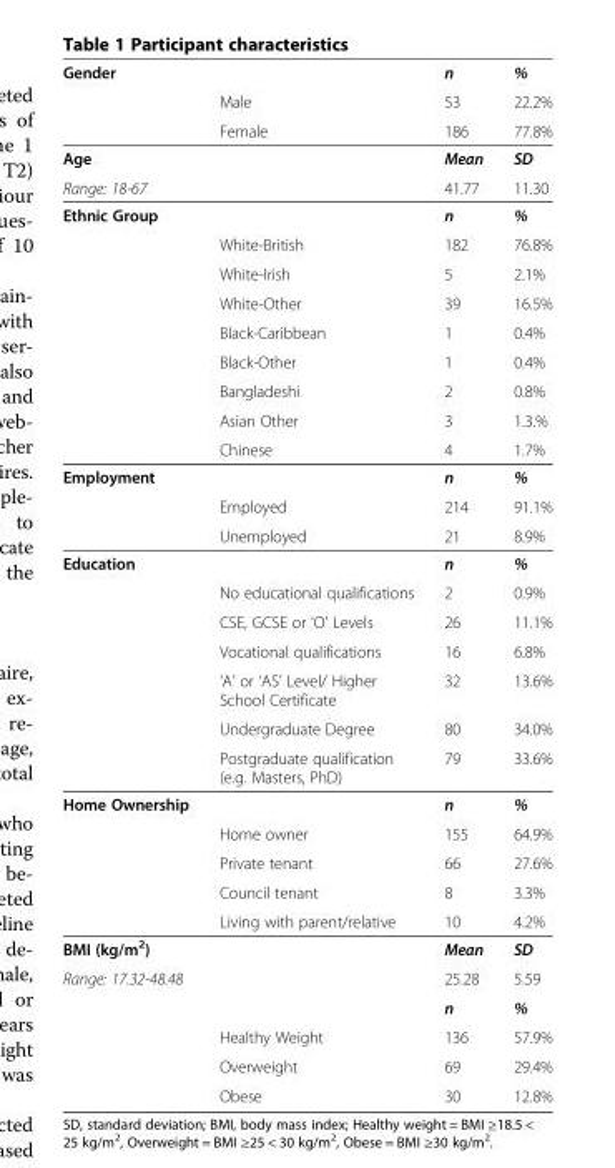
<table><tbody><tr><td rowspan="3">Gender</td><td></td><td>n</td><td>%</td></tr><tr><td>Male</td><td>53</td><td>22.2%</td></tr><tr><td>Female</td><td>186</td><td>77.8%</td></tr><tr><td>Age</td><td></td><td>Mean</td><td>SD</td></tr><tr><td>Range: 18-67</td><td></td><td>41.77</td><td>11.30</td></tr><tr><td rowspan="9">Ethnic Group</td><td></td><td>n</td><td>%</td></tr><tr><td>White-British</td><td>182</td><td>76.8%</td></tr><tr><td>White-Irish</td><td>5</td><td>2.1%</td></tr><tr><td>White-Other</td><td>39</td><td>16.5%</td></tr><tr><td>Black-Caribbean</td><td>1</td><td>0.4%</td></tr><tr><td>Black-Other</td><td>1</td><td>0.4%</td></tr><tr><td>Bangladeshi</td><td>2</td><td>0.8%</td></tr><tr><td>Asian Other</td><td>3</td><td>1.3.%</td></tr><tr><td>Chinese</td><td>4</td><td>1.7%</td></tr><tr><td rowspan="3">Employment</td><td></td><td>n</td><td>%</td></tr><tr><td>Employed</td><td>214</td><td>91.1%</td></tr><tr><td>Unemployed</td><td>21</td><td>8.9%</td></tr><tr><td rowspan="7">Education</td><td></td><td>n</td><td>%</td></tr><tr><td>No educational qualifications</td><td>2</td><td>0.9%</td></tr><tr><td>CSE, GCSE or ‘O’ Levels</td><td>26</td><td>11.1%</td></tr><tr><td>Vocational qualifications</td><td>16</td><td>6.8%</td></tr><tr><td>‘A’ or ‘AS’ Level/ Higher School Certificate</td><td>32</td><td>13.6%</td></tr><tr><td>Undergraduate Degree</td><td>80</td><td>34.0%</td></tr><tr><td>Postgraduate qualification (e.g. Masters, PhD)</td><td>79</td><td>33.6%</td></tr><tr><td rowspan="5">Home Ownership</td><td></td><td>n</td><td>%</td></tr><tr><td>Home owner</td><td>155</td><td>64.9%</td></tr><tr><td>Private tenant</td><td>66</td><td>27.6%</td></tr><tr><td>Council tenant</td><td>8</td><td>3.3%</td></tr><tr><td>Living with parent/relative</td><td>10</td><td>4.2%</td></tr><tr><td>BMI (kg/m<sup>2</sup>)</td><td></td><td>Mean</td><td>SD</td></tr><tr><td rowspan="5">Range: 17.32-48.48</td><td></td><td>25.28</td><td>5.59</td></tr><tr><td></td><td>n</td><td>%</td></tr><tr><td>Healthy Weight</td><td>136</td><td>57.9%</td></tr><tr><td>Overweight</td><td>69</td><td>29.4%</td></tr><tr><td>Obese</td><td>30</td><td>12.8%</td></tr></tbody></table>